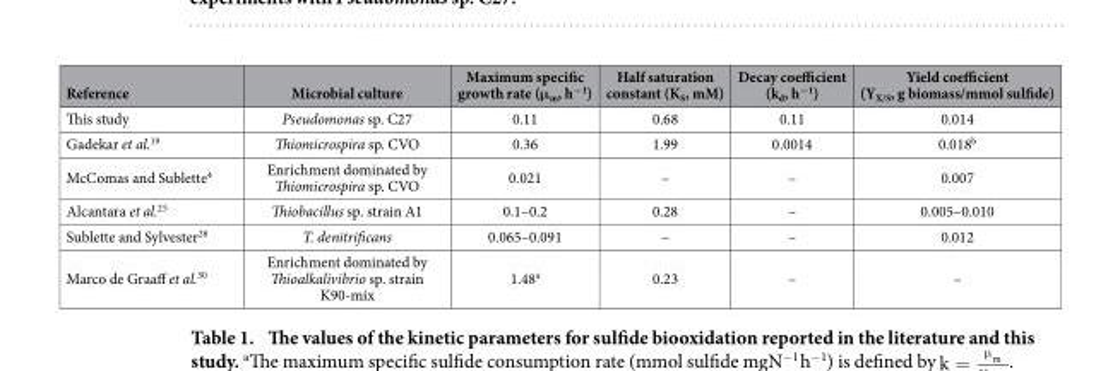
<table><thead><tr><td>Reference</td><td>Microbial culture</td><td>Maximum specific growth rate (μ<sub>m</sub>, h<sup>−1</sup>)</td><td>Half saturation constant (K<sub>S</sub>, mM)</td><td>Decay coefficient (k<sub>d</sub>, h<sup>−1</sup>)</td><td>Yield coefficient (Y<sub>X/S</sub>, g biomass/mmol sulfide)</td></tr></thead><tbody><tr><td>This study</td><td>Pseudomonas sp. C27</td><td>0.11</td><td>0.68</td><td>0.11</td><td>0.014</td></tr><tr><td>Gadekar et al.<sup>19</sup></td><td>Thiomicrospira sp. CVO</td><td>0.36</td><td>1.99</td><td>0.0014</td><td>0.018<sup>b</sup></td></tr><tr><td>McComas and Sublette<sup>4</sup></td><td>Enrichment dominated by Thiomicrospira sp. CVO</td><td>0.021</td><td>–</td><td>–</td><td>0.007</td></tr><tr><td>Alcantara et al.<sup>25</sup></td><td>Thiobacillus sp. strain A1</td><td>0.1–0.2</td><td>0.28</td><td>–</td><td>0.005–0.010</td></tr><tr><td>Sublette and Sylvester<sup>28</sup></td><td>T. denitrificans</td><td>0.065–0.091</td><td>–</td><td>–</td><td>0.012</td></tr><tr><td>Marco de Graaff et al.<sup>30</sup></td><td>Enrichment dominated by Thioalkalivibrio sp. strain K90-mix</td><td>1.48<sup>a</sup></td><td>0.23</td><td>–</td><td>–</td></tr></tbody></table>